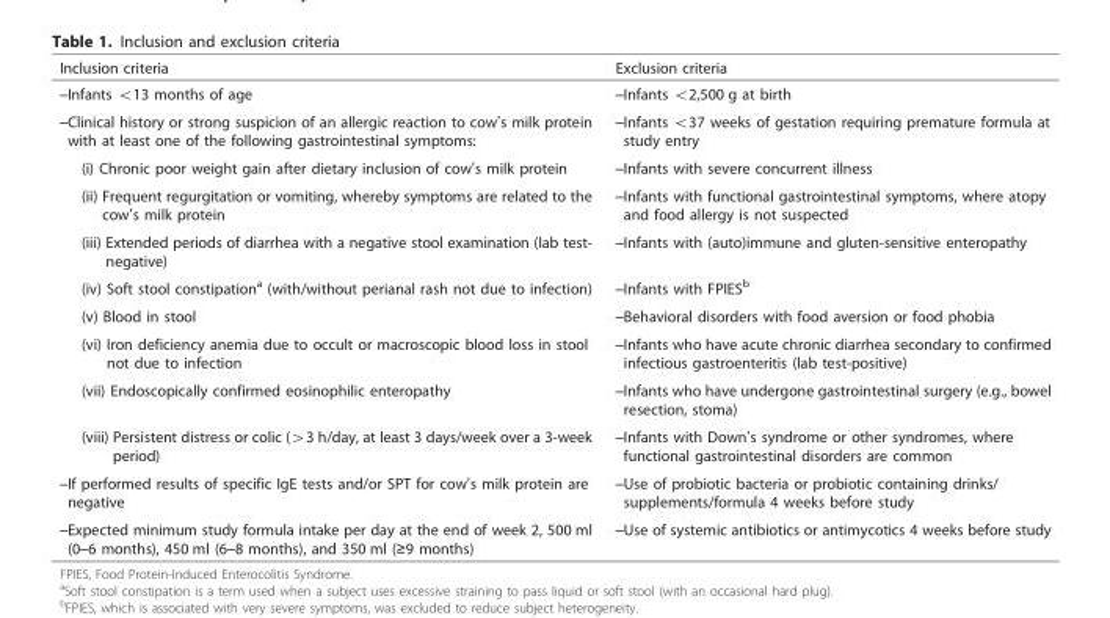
<table><thead><tr><td>Inclusion criteria</td><td>Exclusion criteria</td></tr></thead><tbody><tr><td>–Infants &lt;13 months of age</td><td>–Infants &lt;2,500 g at birth</td></tr><tr><td>–Clinical history or strong suspicion of an allergic reaction to cow’s milk protein with at least one of the following gastrointestinal symptoms:</td><td>–Infants &lt;37 weeks of gestation requiring premature formula at study entry</td></tr><tr><td>(i) Chronic poor weight gain after dietary inclusion of cow’s milk protein</td><td>–Infants with severe concurrent illness</td></tr><tr><td>(ii) Frequent regurgitation or vomiting, whereby symptoms are related to the cow’s milk protein</td><td>–Infants with functional gastrointestinal symptoms, where atopy and food allergy is not suspected</td></tr><tr><td>(iii) Extended periods of diarrhea with a negative stool examination (lab test- negative)</td><td>–Infants with (auto)immune and gluten-sensitive enteropathy</td></tr><tr><td>(iv) Soft stool constipation<sup>a</sup> (with/without perianal rash not due to infection)</td><td>–Infants with FPIES<sup>b</sup></td></tr><tr><td>(v) Blood in stool</td><td>–Behavioral disorders with food aversion or food phobia</td></tr><tr><td>(vi) Iron deficiency anemia due to occult or macroscopic blood loss in stool not due to infection</td><td>–Infants who have acute chronic diarrhea secondary to confirmed infectious gastroenteritis (lab test-positive)</td></tr><tr><td>(vii) Endoscopically confirmed eosinophilic enteropathy</td><td>–Infants who have undergone gastrointestinal surgery (e.g., bowel resection, stoma)</td></tr><tr><td>(viii) Persistent distress or colic (&gt;3 h/day, at least 3 days/week over a 3-week period)</td><td>–Infants with Down’s syndrome or other syndromes, where functional gastrointestinal disorders are common</td></tr><tr><td>–If performed results of specific IgE tests and/or SPT for cow’s milk protein are negative</td><td>–Use of probiotic bacteria or probiotic containing drinks/ supplements/formula 4 weeks before study</td></tr><tr><td>–Expected minimum study formula intake per day at the end of week 2, 500 ml (0–6 months), 450 ml (6–8 months), and 350 ml (≥9 months)</td><td>–Use of systemic antibiotics or antimycotics 4 weeks before study</td></tr></tbody></table>